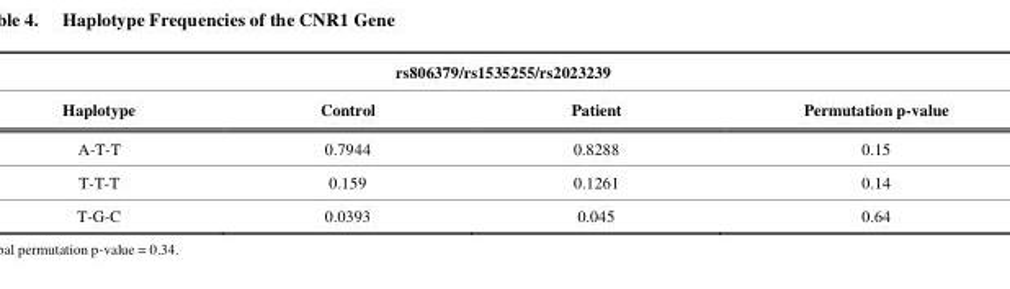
<table><thead><tr><td rowspan="2">Haplotype</td><td colspan="2">rs806379/rs1535255/rs2023239</td><td rowspan="2">Permutation p-value</td></tr><tr><td>Control</td><td>Patient</td></tr></thead><tbody><tr><td>A-T-T</td><td>0.7944</td><td>0.8288</td><td>0.15</td></tr><tr><td>T-T-T</td><td>0.159</td><td>0.1261</td><td>0.14</td></tr><tr><td>T-G-C</td><td>0.0393</td><td>0.045</td><td>0.64</td></tr></tbody></table>